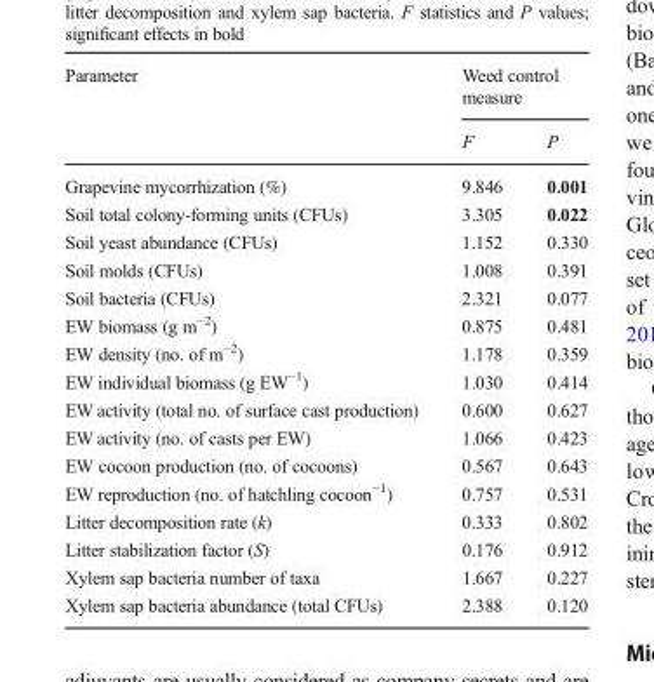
<table><thead><tr><td rowspan="2">Parameter</td><td colspan="2">Weed control measure</td></tr><tr><td>F</td><td>P</td></tr></thead><tbody><tr><td>Grapevine mycorrhization (%)</td><td>9.846</td><td>0.001</td></tr><tr><td>Soil total colony-forming units (CFUs)</td><td>3.305</td><td>0.022</td></tr><tr><td>Soil yeast abundance (CFUs)</td><td>1.152</td><td>0.330</td></tr><tr><td>Soil molds (CFUs)</td><td>1.008</td><td>0.391</td></tr><tr><td>Soil bacteria (CFUs)</td><td>2.321</td><td>0.077</td></tr><tr><td>EW biomass (g m<sup>−2</sup>)</td><td>0.875</td><td>0.481</td></tr><tr><td>EW density (no. of m<sup>−2</sup>)</td><td>1.178</td><td>0.359</td></tr><tr><td>EW individual biomass (g EW<sup>−1</sup>)</td><td>1.030</td><td>0.414</td></tr><tr><td>EW activity (total no. of surface cast production)</td><td>0.600</td><td>0.627</td></tr><tr><td>EW activity (no. of casts per EW)</td><td>1.066</td><td>0.423</td></tr><tr><td>EW cocoon production (no. of cocoons)</td><td>0.567</td><td>0.643</td></tr><tr><td>EW reproduction (no. of hatchling cocoon<sup>−1</sup>)</td><td>0.757</td><td>0.531</td></tr><tr><td>Litter decomposition rate (k)</td><td>0.333</td><td>0.802</td></tr><tr><td>Litter stabilization factor (S)</td><td>0.176</td><td>0.912</td></tr><tr><td>Xylem sap bacteria number of taxa</td><td>1.667</td><td>0.227</td></tr><tr><td>Xylem sap bacteria abundance (total CFUs)</td><td>2.388</td><td>0.120</td></tr></tbody></table>